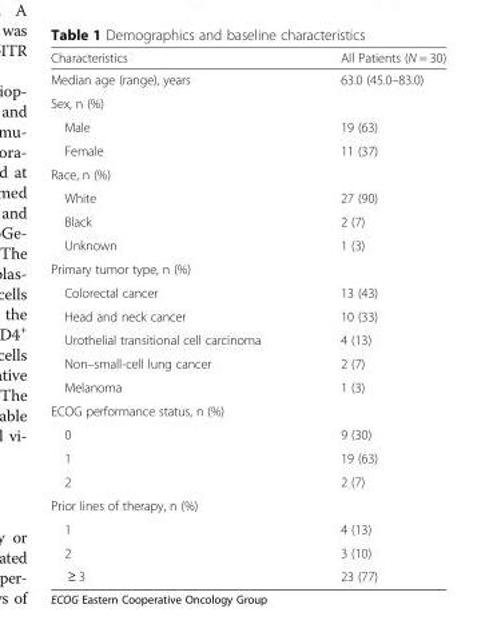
<table><thead><tr><td>Characteristics</td><td>All Patients (N = 30)</td></tr></thead><tbody><tr><td>Median age (range), years</td><td>63.0 (45.0–83.0)</td></tr><tr><td colspan="2">Sex, n (%)</td></tr><tr><td>Male</td><td>19 (63)</td></tr><tr><td>Female</td><td>11 (37)</td></tr><tr><td colspan="2">Race, n (%)</td></tr><tr><td>White</td><td>27 (90)</td></tr><tr><td>Black</td><td>2 (7)</td></tr><tr><td>Unknown</td><td>1 (3)</td></tr><tr><td colspan="2">Primary tumor type, n (%)</td></tr><tr><td>Colorectal cancer</td><td>13 (43)</td></tr><tr><td>Head and neck cancer</td><td>10 (33)</td></tr><tr><td>Urothelial transitional cell carcinoma</td><td>4 (13)</td></tr><tr><td>Non–small-cell lung cancer</td><td>2 (7)</td></tr><tr><td>Melanoma</td><td>1 (3)</td></tr><tr><td colspan="2">ECOG performance status, n (%)</td></tr><tr><td>0</td><td>9 (30)</td></tr><tr><td>1</td><td>19 (63)</td></tr><tr><td>2</td><td>2 (7)</td></tr><tr><td colspan="2">Prior lines of therapy, n (%)</td></tr><tr><td>1</td><td>4 (13)</td></tr><tr><td>2</td><td>3 (10)</td></tr><tr><td>≥ 3</td><td>23 (77)</td></tr></tbody></table>